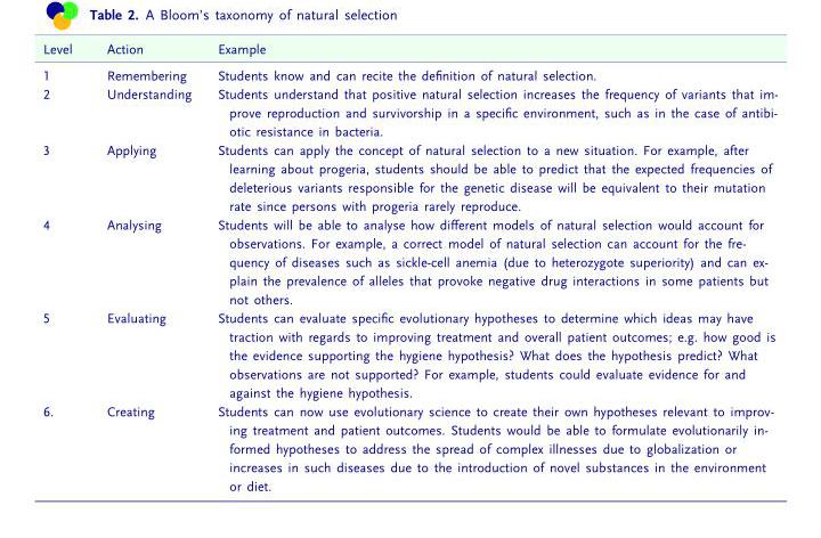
<table><thead><tr><td>Level</td><td>Action</td><td>Example</td></tr></thead><tbody><tr><td>1</td><td>Remembering</td><td>Students know and can recite the definition of natural selection.</td></tr><tr><td>2</td><td>Understanding</td><td>Students understand that positive natural selection increases the frequency of variants that im- prove reproduction and survivorship in a specific environment, such as in the case of antibi- otic resistance in bacteria.</td></tr><tr><td>3</td><td>Applying</td><td>Students can apply the concept of natural selection to a new situation. For example, after learning about progeria, students should be able to predict that the expected frequencies of deleterious variants responsible for the genetic disease will be equivalent to their mutation rate since persons with progeria rarely reproduce.</td></tr><tr><td>4</td><td>Analysing</td><td>Students will be able to analyse how different models of natural selection would account for observations. For example, a correct model of natural selection can account for the fre- quency of diseases such as sickle-cell anemia (due to heterozygote superiority) and can ex- plain the prevalence of alleles that provoke negative drug interactions in some patients but not others.</td></tr><tr><td>5</td><td>Evaluating</td><td>Students can evaluate specific evolutionary hypotheses to determine which ideas may have traction with regards to improving treatment and overall patient outcomes; e.g. how good is the evidence supporting the hygiene hypothesis? What does the hypothesis predict? What observations are not supported? For example, students could evaluate evidence for and against the hygiene hypothesis.</td></tr><tr><td>6.</td><td>Creating</td><td>Students can now use evolutionary science to create their own hypotheses relevant to improv- ing treatment and patient outcomes. Students would be able to formulate evolutionarily in- formed hypotheses to address the spread of complex illnesses due to globalization or increases in such diseases due to the introduction of novel substances in the environment or diet.</td></tr></tbody></table>